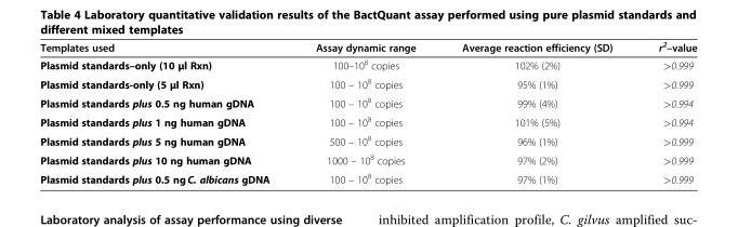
<table><thead><tr><td>Templates used</td><td>Assay dynamic range</td><td>Average reaction efficiency (SD)</td><td>r<sup>2</sup>–value</td></tr></thead><tbody><tr><td>Plasmid standards–only (10 μl Rxn)</td><td>100–10<sup>8</sup> copies</td><td>102% (2%)</td><td>&gt;0.999</td></tr><tr><td>Plasmid standards-only (5 μl Rxn)</td><td>100 – 10<sup>8</sup> copies</td><td>95% (1%)</td><td>&gt;0.999</td></tr><tr><td>Plasmid standards plus 0.5 ng human gDNA</td><td>100 – 10<sup>8</sup> copies</td><td>99% (4%)</td><td>&gt;0.994</td></tr><tr><td>Plasmid standards plus 1 ng human gDNA</td><td>100 – 10<sup>8</sup> copies</td><td>101% (5%)</td><td>&gt;0.994</td></tr><tr><td>Plasmid standards plus 5 ng human gDNA</td><td>500 – 10<sup>8</sup> copies</td><td>96% (1%)</td><td>&gt;0.999</td></tr><tr><td>Plasmid standards plus 10 ng human gDNA</td><td>1000 – 10<sup>8</sup> copies</td><td>97% (2%)</td><td>&gt;0.999</td></tr><tr><td>Plasmid standards plus 0.5 ng C. albicans gDNA</td><td>100 – 10<sup>8</sup> copies</td><td>97% (1%)</td><td>&gt;0.999</td></tr></tbody></table>